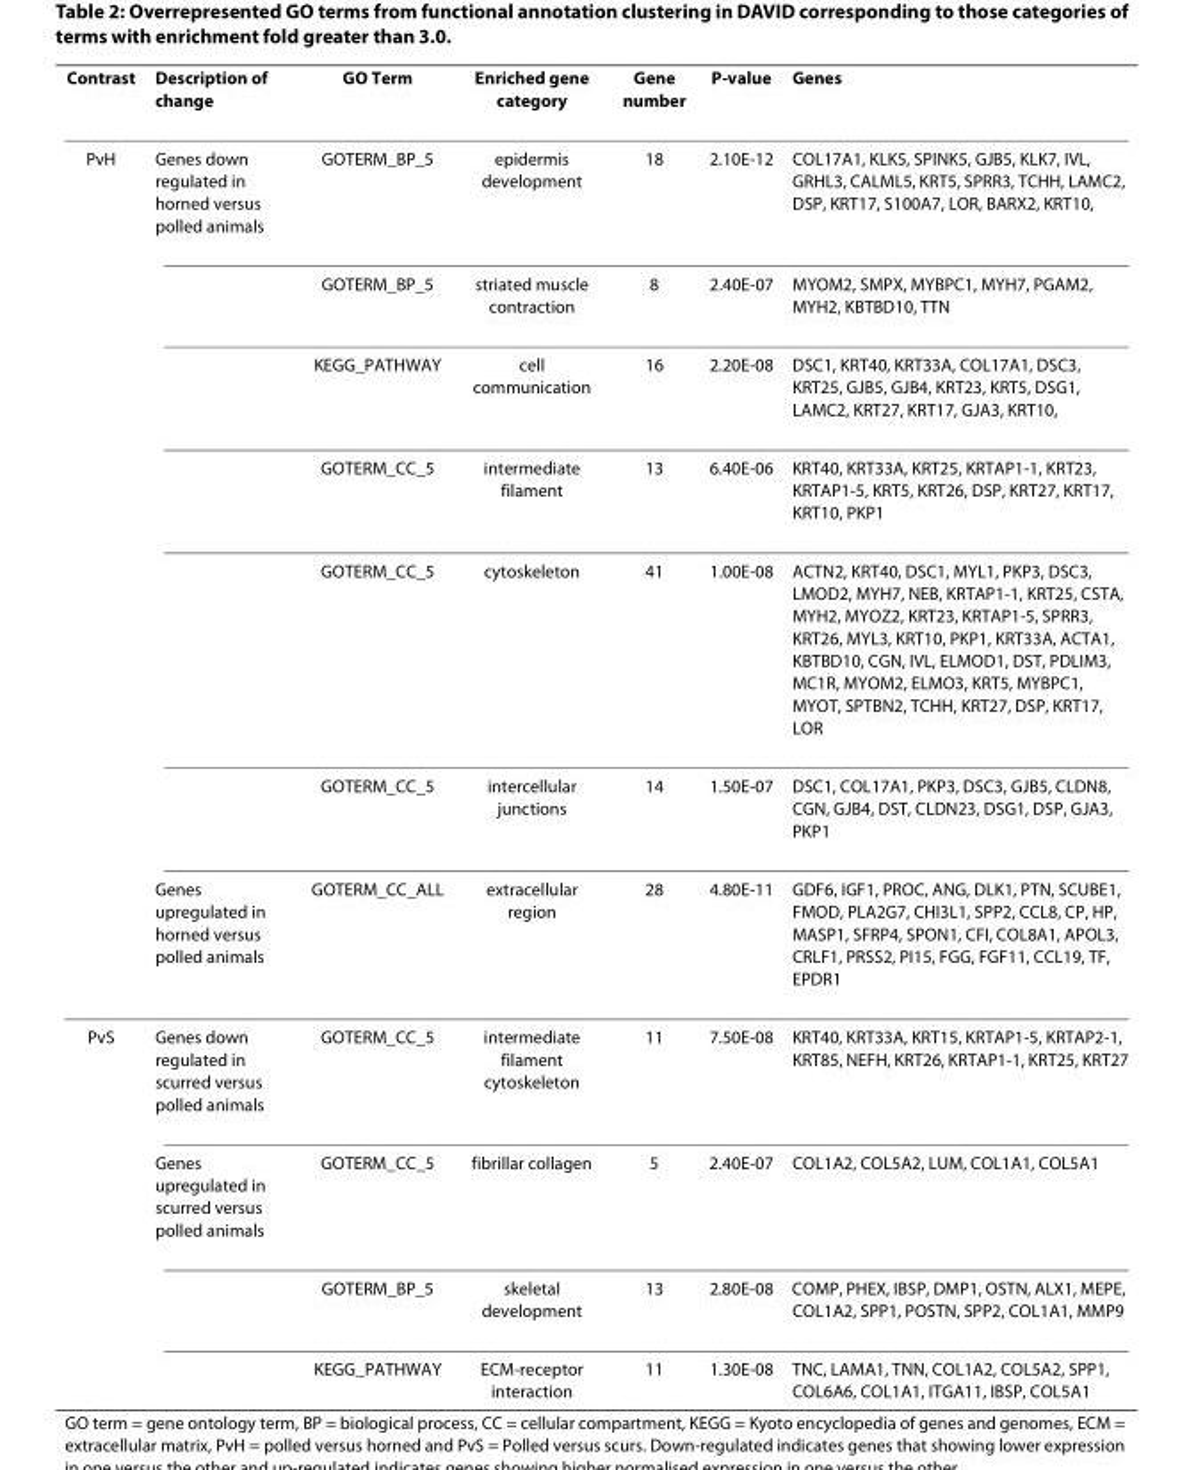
<table><thead><tr><td>Contrast</td><td>Description of change</td><td>GO Term</td><td>Enriched gene category</td><td>Gene number</td><td>P-value</td><td>Genes</td></tr></thead><tbody><tr><td rowspan="7">PvH</td><td>Genes down regulated in horned versus polled animals</td><td>GOTERM_BP_5</td><td>epidermis development</td><td>18</td><td>2.10E-12</td><td>COL17A1, KLK5, SPINK5, GJB5, KLK7, IVL, GRHL3, CALML5, KRT5, SPRR3, TCHH, LAMC2, DSP, KRT17, S100A7, LOR, BARX2, KRT10,</td></tr><tr><td></td><td>GOTERM_BP_5</td><td>striated muscle contraction</td><td>8</td><td>2.40E-07</td><td>MYOM2, SMPX, MYBPC1, MYH7, PGAM2, MYH2, KBTBD10, TTN</td></tr><tr><td></td><td>KEGG_PATHWAY</td><td>cell communication</td><td>16</td><td>2.20E-08</td><td>DSC1, KRT40, KRT33A, COL17A1, DSC3, KRT25, GJB5, GJB4, KRT23, KRT5, DSG1, LAMC2, KRT27, KRT17, GJA3, KRT10,</td></tr><tr><td></td><td>GOTERM_CC_5</td><td>intermediate filament</td><td>13</td><td>6.40E-06</td><td>KRT40, KRT33A, KRT25, KRTAP1-1, KRT23, KRTAP1-5, KRT5, KRT26, DSP, KRT27, KRT17, KRT10, PKP1</td></tr><tr><td></td><td>GOTERM_CC_5</td><td>cytoskeleton</td><td>41</td><td>1.00E-08</td><td>ACTN2, KRT40, DSC1, MYL1, PKP3, DSC3, LMOD2, MYH7, NEB, KRTAP1-1, KRT25, CSTA, MYH2, MYOZ2, KRT23, KRTAP1-5, SPRR3, KRT26, MYL3, KRT10, PKP1, KRT33A, ACTA1, KBTBD10, CGN, IVL, ELMOD1, DST, PDLIM3, MC1R, MYOM2, ELMO3, KRT5, MYBPC1, MYOT, SPTBN2, TCHH, KRT27, DSP, KRT17, LOR</td></tr><tr><td></td><td>GOTERM_CC_5</td><td>intercellular junctions</td><td>14</td><td>1.50E-07</td><td>DSC1, COL17A1, PKP3, DSC3, GJB5, CLDN8, CGN, GJB4, DST, CLDN23, DSG1, DSP, GJA3, PKP1</td></tr><tr><td>Genes upregulated in horned versus polled animals</td><td>GOTERM_CC_ALL</td><td>extracellular region</td><td>28</td><td>4.80E-11</td><td>GDF6, IGF1, PROC, ANG, DLK1, PTN, SCUBE1, FMOD, PLA2G7, CHI3L1, SPP2, CCL8, CP, HP, MASP1, SFRP4, SPON1, CFI, COL8A1, APOL3, CRLF1, PRSS2, PI15, FGG, FGF11, CCL19, TF, EPDR1</td></tr><tr><td rowspan="4">PvS</td><td>Genes down regulated in scurred versus polled animals</td><td>GOTERM_CC_5</td><td>intermediate filament cytoskeleton</td><td>11</td><td>7.50E-08</td><td>KRT40, KRT33A, KRT15, KRTAP1-5, KRTAP2-1, KRT85, NEFH, KRT26, KRTAP1-1, KRT25, KRT27</td></tr><tr><td>Genes upregulated in scurred versus polled animals</td><td>GOTERM_CC_5</td><td>fibrillar collagen</td><td>5</td><td>2.40E-07</td><td>COL1A2, COL5A2, LUM, COL1A1, COL5A1</td></tr><tr><td></td><td>GOTERM_BP_5</td><td>skeletal development</td><td>13</td><td>2.80E-08</td><td>COMP, PHEX, IBSP, DMP1, OSTN, ALX1, MEPE, COL1A2, SPP1, POSTN, SPP2, COL1A1, MMP9</td></tr><tr><td></td><td>KEGG_PATHWAY</td><td>ECM-receptor interaction</td><td>11</td><td>1.30E-08</td><td>TNC, LAMA1, TNN, COL1A2, COL5A2, SPP1, COL6A6, COL1A1, ITGA11, IBSP, COL5A1</td></tr></tbody></table>